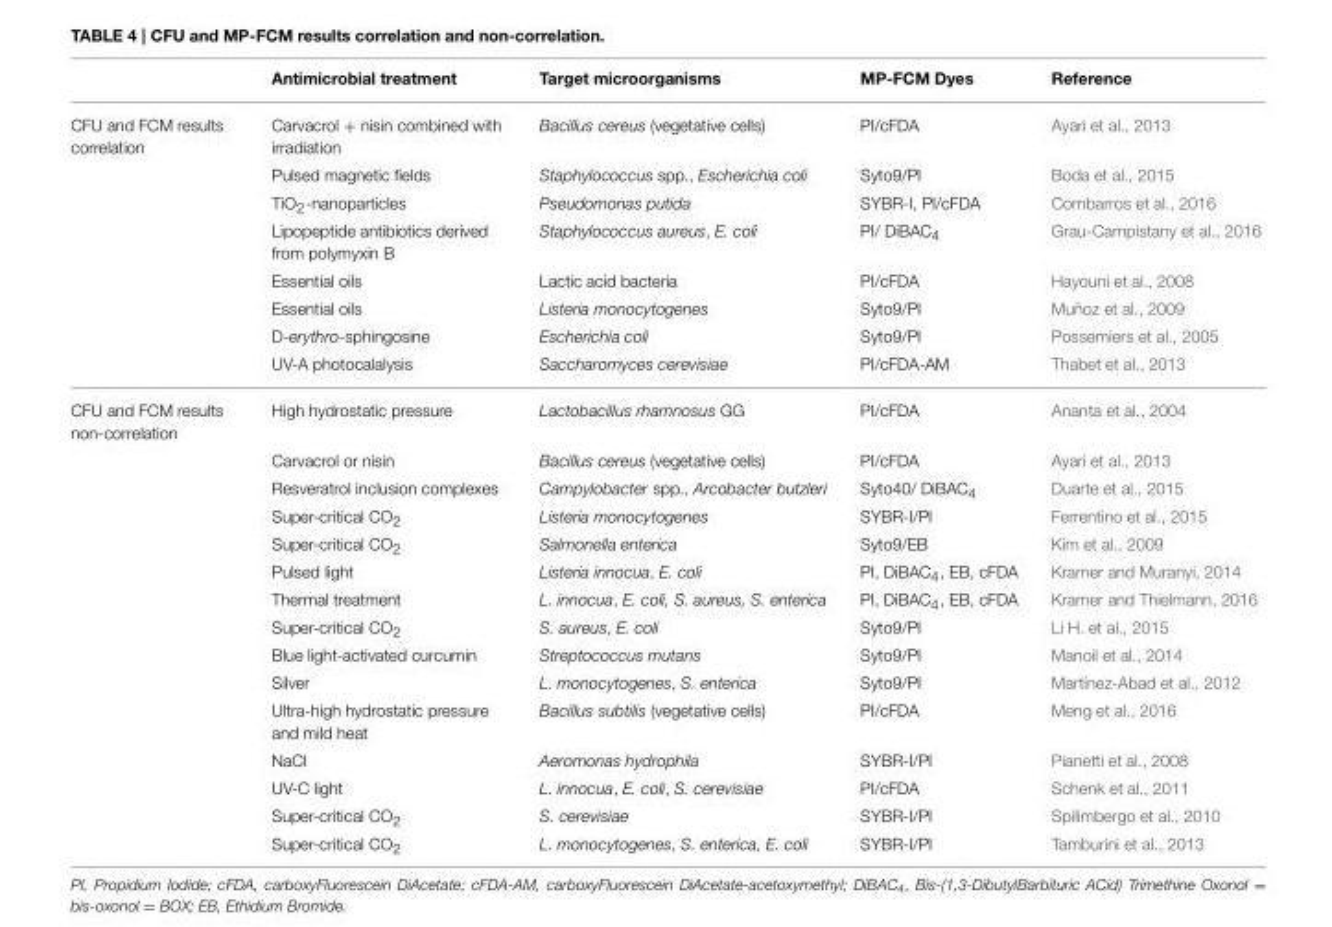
<table><thead><tr><td></td><td>Antimicrobial treatment</td><td>Target microorganisms</td><td>MP-FCM Dyes</td><td>Reference</td></tr></thead><tbody><tr><td rowspan="8">CFU and FCM results correlation</td><td>Carvacrol + nisin combined with irradiation</td><td>Bacillus cereus (vegetative cells)</td><td>PI/cFDA</td><td>Ayari et al., 2013</td></tr><tr><td>Pulsed magnetic fields</td><td>Staphylococcus spp., Escherichia coli</td><td>Syto9/PI</td><td>Boda et al., 2015</td></tr><tr><td>TiO<sub>2</sub>-nanoparticles</td><td>Pseudomonas putida</td><td>SYBR-I, PI/cFDA</td><td>Combarros et al., 2016</td></tr><tr><td>Lipopeptide antibiotics derived from polymyxin B</td><td>Staphylococcus aureus, E. coli</td><td>PI/ DiBAC<sub>4</sub></td><td>Grau-Campistany et al., 2016</td></tr><tr><td>Essential oils</td><td>Lactic acid bacteria</td><td>PI/cFDA</td><td>Hayouni et al., 2008</td></tr><tr><td>Essential oils</td><td>Listeria monocytogenes</td><td>Syto9/PI</td><td>Muñoz et al., 2009</td></tr><tr><td>D-erythro-sphingosine</td><td>Escherichia coli</td><td>Syto9/PI</td><td>Possemiers et al., 2005</td></tr><tr><td>UV-A photocalalysis</td><td>Saccharomyces cerevisiae</td><td>PI/cFDA-AM</td><td>Thabet et al., 2013</td></tr><tr><td rowspan="15">CFU and FCM results non-correlation</td><td>High hydrostatic pressure</td><td>Lactobacillus rhamnosus GG</td><td>PI/cFDA</td><td>Ananta et al., 2004</td></tr><tr><td>Carvacrol or nisin</td><td>Bacillus cereus (vegetative cells)</td><td>PI/cFDA</td><td>Ayari et al., 2013</td></tr><tr><td>Resveratrol inclusion complexes</td><td>Campylobacter spp., Arcobacter butzleri</td><td>Syto40/ DiBAC<sub>4</sub></td><td>Duarte et al., 2015</td></tr><tr><td>Super-critical CO<sub>2</sub></td><td>Listeria monocytogenes</td><td>SYBR-I/PI</td><td>Ferrentino et al., 2015</td></tr><tr><td>Super-critical CO<sub>2</sub></td><td>Salmonella enterica</td><td>Syto9/EB</td><td>Kim et al., 2009</td></tr><tr><td>Pulsed light</td><td>Listeria innocua, E. coli</td><td>PI, DiBAC<sub>4</sub>, EB, cFDA</td><td>Kramer and Muranyi, 2014</td></tr><tr><td>Thermal treatment</td><td>L. innocua, E. coli, S. aureus, S. enterica</td><td>PI, DiBAC<sub>4</sub>, EB, cFDA</td><td>Kramer and Thielmann, 2016</td></tr><tr><td>Super-critical CO<sub>2</sub></td><td>S. aureus, E. coli</td><td>Syto9/PI</td><td>Li H. et al., 2015</td></tr><tr><td>Blue light-activated curcumin</td><td>Streptococcus mutans</td><td>Syto9/PI</td><td>Manoil et al., 2014</td></tr><tr><td>Silver</td><td>L. monocytogenes, S. enterica</td><td>Syto9/PI</td><td>Martínez-Abad et al., 2012</td></tr><tr><td>Ultra-high hydrostatic pressure and mild heat</td><td>Bacillus subtilis (vegetative cells)</td><td>PI/cFDA</td><td>Meng et al., 2016</td></tr><tr><td>NaCl</td><td>Aeromonas hydrophila</td><td>SYBR-I/PI</td><td>Pianetti et al., 2008</td></tr><tr><td>UV-C light</td><td>L. innocua, E. coli, S. cerevisiae</td><td>PI/cFDA</td><td>Schenk et al., 2011</td></tr><tr><td>Super-critical CO<sub>2</sub></td><td>S. cerevisiae</td><td>SYBR-I/PI</td><td>Spilimbergo et al., 2010</td></tr><tr><td>Super-critical CO<sub>2</sub></td><td>L. monocytogenes, S. enterica, E. coli</td><td>SYBR-I/PI</td><td>Tamburini et al., 2013</td></tr></tbody></table>